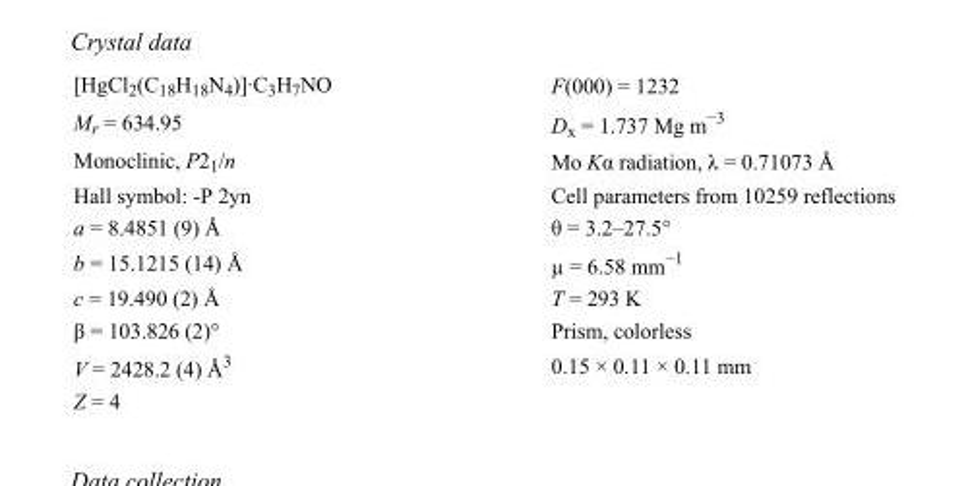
<table><tbody><tr><td>[HgCl<sub>2</sub>(C<sub>18</sub>H<sub>18</sub>N<sub>4</sub>)]·C<sub>3</sub>H<sub>7</sub>NO</td><td>F(000) = 1232</td></tr><tr><td>M<sub>r</sub> = 634.95</td><td>D<sub>x</sub> = 1.737 Mg m<sup>−3</sup></td></tr><tr><td>Monoclinic, P2<sub>1</sub>/n</td><td>Mo Kα radiation, λ = 0.71073 Å</td></tr><tr><td>Hall symbol: -P 2yn</td><td>Cell parameters from 10259 reflections</td></tr><tr><td>a = 8.4851 (9) Å</td><td>θ = 3.2–27.5°</td></tr><tr><td>b = 15.1215 (14) Å</td><td>µ = 6.58 mm<sup>−1</sup></td></tr><tr><td>c = 19.490 (2) Å</td><td>T = 293 K</td></tr><tr><td>β = 103.826 (2)°</td><td>Prism, colorless</td></tr><tr><td>V = 2428.2 (4) Å<sup>3</sup></td><td>0.15 × 0.11 × 0.11 mm</td></tr><tr><td>Z = 4</td><td></td></tr></tbody></table>